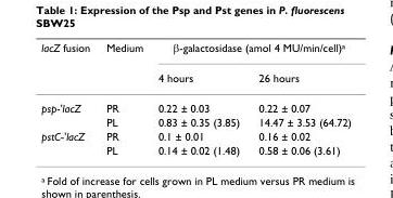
<table><thead><tr><td rowspan="2">lacZ fusion</td><td rowspan="2">Medium</td><td colspan="2">β-galactosidase (amol 4 MU/min/cell)<sup>a</sup></td></tr><tr><td>4 hours</td><td>26 hours</td></tr></thead><tbody><tr><td rowspan="2">psp-&#x27;lacZ</td><td>PR</td><td>0.22 ± 0.03</td><td>0.22 ± 0.07</td></tr><tr><td>PL</td><td>0.83 ± 0.35 (3.85)</td><td>14.47 ± 3.53 (64.72)</td></tr><tr><td rowspan="2">pstC-&#x27;lacZ</td><td>PR</td><td>0.1 ± 0.01</td><td>0.16 ± 0.02</td></tr><tr><td>PL</td><td>0.14 ± 0.02 (1.48)</td><td>0.58 ± 0.06 (3.61)</td></tr></tbody></table>